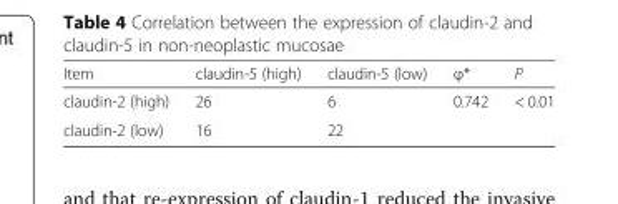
<table><thead><tr><td>Item</td><td>claudin-5 (high)</td><td>claudin-5 (low)</td><td>φ*</td><td>P</td></tr></thead><tbody><tr><td>claudin-2 (high)</td><td>26</td><td>6</td><td>0.742</td><td>&lt; 0.01</td></tr><tr><td>claudin-2 (low)</td><td>16</td><td>22</td><td></td><td></td></tr></tbody></table>